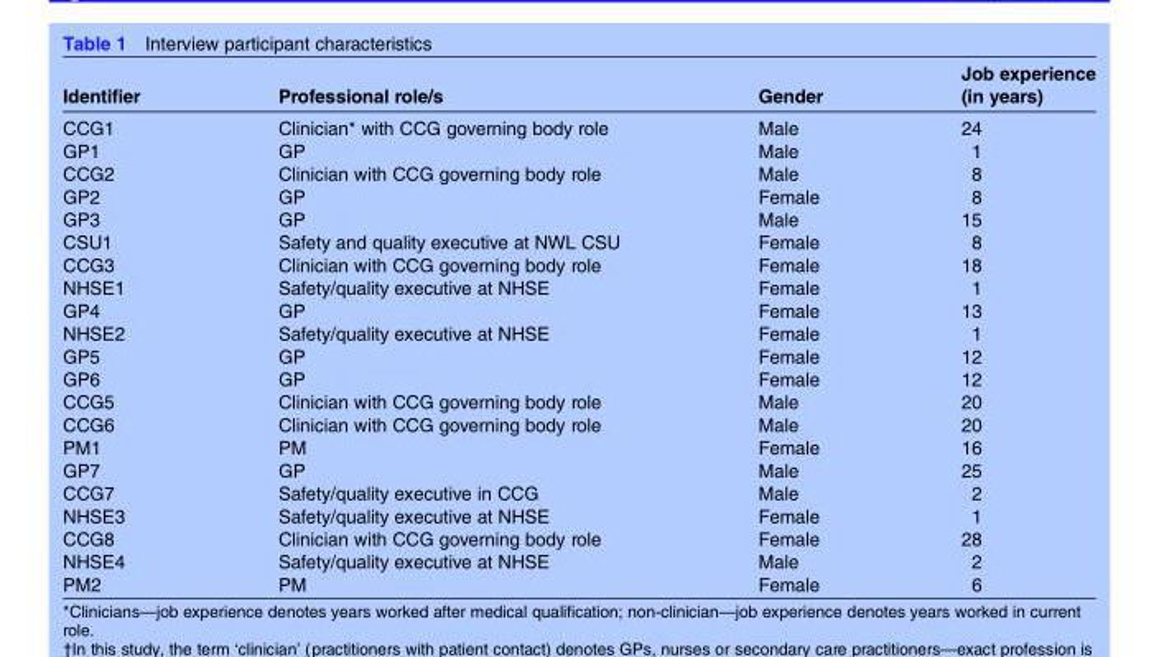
<table><thead><tr><td>Identifier</td><td>Professional role/s</td><td>Gender</td><td>Job experience (in years)</td></tr></thead><tbody><tr><td>CCG1</td><td>Clinician* with CCG governing body role</td><td>Male</td><td>24</td></tr><tr><td>GP1</td><td>GP</td><td>Male</td><td>1</td></tr><tr><td>CCG2</td><td>Clinician with CCG governing body role</td><td>Male</td><td>8</td></tr><tr><td>GP2</td><td>GP</td><td>Female</td><td>8</td></tr><tr><td>GP3</td><td>GP</td><td>Male</td><td>15</td></tr><tr><td>CSU1</td><td>Safety and quality executive at NWL CSU</td><td>Female</td><td>8</td></tr><tr><td>CCG3</td><td>Clinician with CCG governing body role</td><td>Female</td><td>18</td></tr><tr><td>NHSE1</td><td>Safety/quality executive at NHSE</td><td>Female</td><td>1</td></tr><tr><td>GP4</td><td>GP</td><td>Female</td><td>13</td></tr><tr><td>NHSE2</td><td>Safety/quality executive at NHSE</td><td>Female</td><td>1</td></tr><tr><td>GP5</td><td>GP</td><td>Female</td><td>12</td></tr><tr><td>GP6</td><td>GP</td><td>Female</td><td>12</td></tr><tr><td>CCG5</td><td>Clinician with CCG governing body role</td><td>Male</td><td>20</td></tr><tr><td>CCG6</td><td>Clinician with CCG governing body role</td><td>Male</td><td>20</td></tr><tr><td>PM1</td><td>PM</td><td>Female</td><td>16</td></tr><tr><td>GP7</td><td>GP</td><td>Male</td><td>25</td></tr><tr><td>CCG7</td><td>Safety/quality executive in CCG</td><td>Male</td><td>2</td></tr><tr><td>NHSE3</td><td>Safety/quality executive at NHSE</td><td>Female</td><td>1</td></tr><tr><td>CCG8</td><td>Clinician with CCG governing body role</td><td>Female</td><td>28</td></tr><tr><td>NHSE4</td><td>Safety/quality executive at NHSE</td><td>Male</td><td>2</td></tr><tr><td>PM2</td><td>PM</td><td>Female</td><td>6</td></tr></tbody></table>